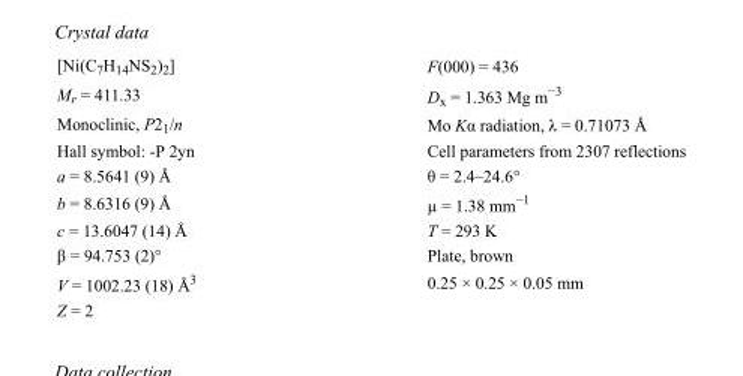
<table><tbody><tr><td>[Ni(C<sub>7</sub>H<sub>14</sub>NS<sub>2</sub>)<sub>2</sub>]</td><td>F(000) = 436</td></tr><tr><td>M<sub>r</sub> = 411.33</td><td>D<sub>x</sub> = 1.363 Mg m<sup>−3</sup></td></tr><tr><td>Monoclinic, P2<sub>1</sub>/n</td><td>Mo Kα radiation, λ = 0.71073 Å</td></tr><tr><td>Hall symbol: -P 2yn</td><td>Cell parameters from 2307 reflections</td></tr><tr><td>a = 8.5641 (9) Å</td><td>θ = 2.4–24.6°</td></tr><tr><td>b = 8.6316 (9) Å</td><td>µ = 1.38 mm<sup>−1</sup></td></tr><tr><td>c = 13.6047 (14) Å</td><td>T = 293 K</td></tr><tr><td>β = 94.753 (2)°</td><td>Plate, brown</td></tr><tr><td>V = 1002.23 (18) Å<sup>3</sup></td><td>0.25 × 0.25 × 0.05 mm</td></tr><tr><td>Z = 2</td><td></td></tr></tbody></table>